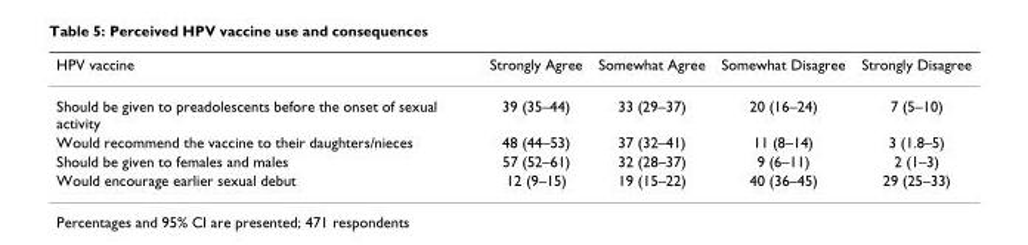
<table><thead><tr><td>HPV vaccine</td><td>Strongly Agree</td><td>Somewhat Agree</td><td>Somewhat Disagree</td><td>Strongly Disagree</td></tr></thead><tbody><tr><td>Should be given to preadolescents before the onset of sexual activity</td><td>39 (35–44)</td><td>33 (29–37)</td><td>20 (16–24)</td><td>7 (5–10)</td></tr><tr><td>Would recommend the vaccine to their daughters/nieces</td><td>48 (44–53)</td><td>37 (32–41)</td><td>11 (8–14)</td><td>3 (1.8–5)</td></tr><tr><td>Should be given to females and males</td><td>57 (52–61)</td><td>32 (28–37)</td><td>9 (6–11)</td><td>2 (1–3)</td></tr><tr><td>Would encourage earlier sexual debut</td><td>12 (9–15)</td><td>19 (15–22)</td><td>40 (36–45)</td><td>29 (25–33)</td></tr></tbody></table>